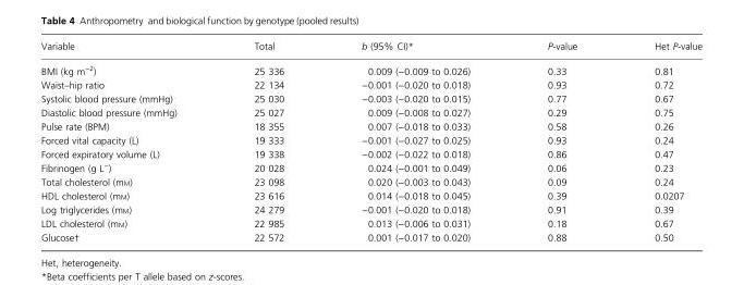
<table><thead><tr><td>Variable</td><td>Total</td><td>b (95% CI)*</td><td>P-value</td><td>Het P-value</td></tr></thead><tbody><tr><td>BMI (kg m<sup>−2</sup>)</td><td>25 336</td><td>0.009 (−0.009 to 0.026)</td><td>0.33</td><td>0.81</td></tr><tr><td>Waist–hip ratio</td><td>22 134</td><td>−0.001 (−0.020 to 0.018)</td><td>0.93</td><td>0.72</td></tr><tr><td>Systolic blood pressure (mmHg)</td><td>25 030</td><td>−0.003 (−0.020 to 0.015)</td><td>0.77</td><td>0.67</td></tr><tr><td>Diastolic blood pressure (mmHg)</td><td>25 027</td><td>0.009 (−0.008 to 0.027)</td><td>0.29</td><td>0.75</td></tr><tr><td>Pulse rate (BPM)</td><td>18 355</td><td>0.007 (−0.018 to 0.033)</td><td>0.58</td><td>0.26</td></tr><tr><td>Forced vital capacity (L)</td><td>19 333</td><td>−0.001 (−0.027 to 0.025)</td><td>0.93</td><td>0.24</td></tr><tr><td>Forced expiratory volume (L)</td><td>19 338</td><td>−0.002 (−0.022 to 0.018)</td><td>0.86</td><td>0.47</td></tr><tr><td>Fibrinogen (g L<sup>−</sup>)</td><td>20 028</td><td>0.024 (−0.001 to 0.049)</td><td>0.06</td><td>0.23</td></tr><tr><td>Total cholesterol (mM)</td><td>23 098</td><td>0.020 (−0.003 to 0.043)</td><td>0.09</td><td>0.24</td></tr><tr><td>HDL cholesterol (mM)</td><td>23 616</td><td>0.014 (−0.018 to 0.045)</td><td>0.39</td><td>0.0207</td></tr><tr><td>Log triglycerides (mM)</td><td>24 279</td><td>−0.001 (−0.020 to 0.018)</td><td>0.91</td><td>0.39</td></tr><tr><td>LDL cholesterol (mM)</td><td>22 985</td><td>0.013 (−0.006 to 0.031)</td><td>0.18</td><td>0.67</td></tr><tr><td>Glucose†</td><td>22 572</td><td>0.001 (−0.017 to 0.020)</td><td>0.88</td><td>0.50</td></tr></tbody></table>